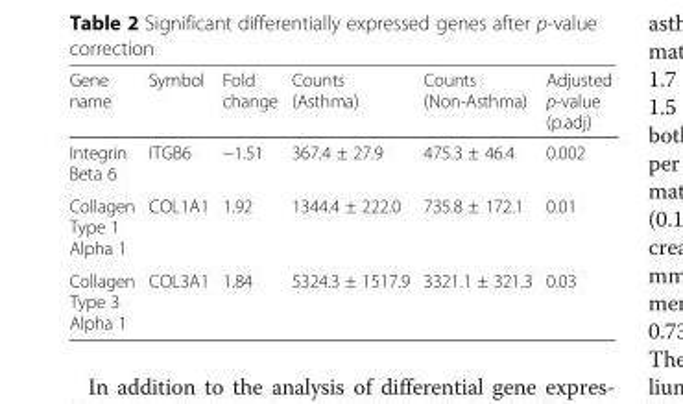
<table><thead><tr><td>Gene name</td><td>Symbol</td><td>Fold change</td><td>Counts (Asthma)</td><td>Counts (Non-Asthma)</td><td>Adjusted p-value (p.adj)</td></tr></thead><tbody><tr><td>Integrin Beta 6</td><td>ITGB6</td><td>−1.51</td><td>367.4 ± 27.9</td><td>475.3 ± 46.4</td><td>0.002</td></tr><tr><td>Collagen Type 1 Alpha 1</td><td>COL1A1</td><td>1.92</td><td>1344.4 ± 222.0</td><td>735.8 ± 172.1</td><td>0.01</td></tr><tr><td>Collagen Type 3 Alpha 1</td><td>COL3A1</td><td>1.84</td><td>5324.3 ± 1517.9</td><td>3321.1 ± 321.3</td><td>0.03</td></tr></tbody></table>